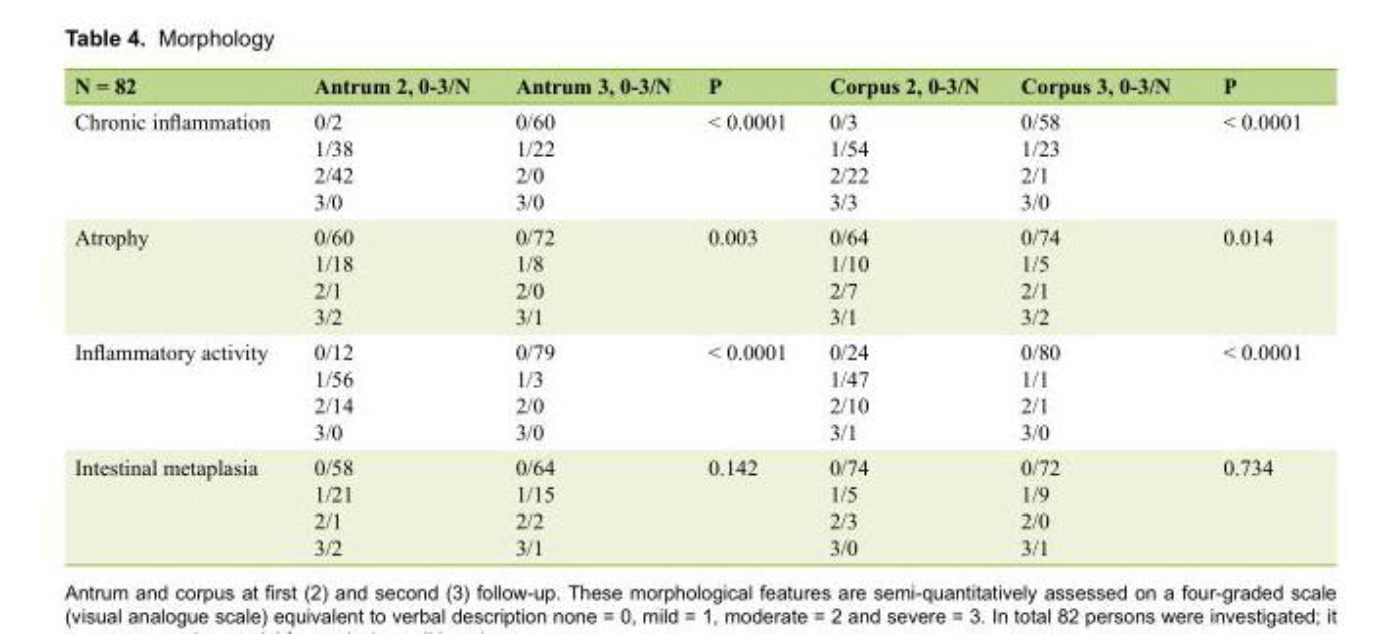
<table><thead><tr><td>N = 82</td><td>Antrum 2, 0-3/N</td><td>Antrum 3, 0-3/N</td><td>P</td><td>Corpus 2, 0-3/N</td><td>Corpus 3, 0-3/N</td><td>P</td></tr></thead><tbody><tr><td>Chronic inflammation</td><td>0/2 1/38 2/42 3/0</td><td>0/60 1/22 2/0 3/0</td><td>&lt; 0.0001</td><td>0/3 1/54 2/22 3/3</td><td>0/58 1/23 2/1 3/0</td><td>&lt; 0.0001</td></tr><tr><td>Atrophy</td><td>0/60 1/18 2/1 3/2</td><td>0/72 1/8 2/0 3/1</td><td>0.003</td><td>0/64 1/10 2/7 3/1</td><td>0/74 1/5 2/1 3/2</td><td>0.014</td></tr><tr><td>Inflammatory activity</td><td>0/12 1/56 2/14 3/0</td><td>0/79 1/3 2/0 3/0</td><td>&lt; 0.0001</td><td>0/24 1/47 2/10 3/1</td><td>0/80 1/1 2/1 3/0</td><td>&lt; 0.0001</td></tr><tr><td>Intestinal metaplasia</td><td>0/58 1/21 2/1 3/2</td><td>0/64 1/15 2/2 3/1</td><td>0.142</td><td>0/74 1/5 2/3 3/0</td><td>0/72 1/9 2/0 3/1</td><td>0.734</td></tr></tbody></table>